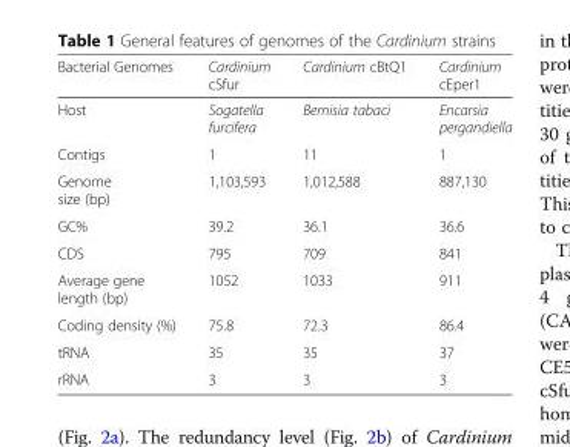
<table><thead><tr><td>Bacterial Genomes</td><td>Cardinium cSfur</td><td>Cardinium cBtQ1</td><td>Cardinium cEper1</td></tr></thead><tbody><tr><td>Host</td><td>Sogatella furcifera</td><td>Bemisia tabaci</td><td>Encarsia pergandiella</td></tr><tr><td>Contigs</td><td>1</td><td>11</td><td>1</td></tr><tr><td>Genome size (bp)</td><td>1,103,593</td><td>1,012,588</td><td>887,130</td></tr><tr><td>GC%</td><td>39.2</td><td>36.1</td><td>36.6</td></tr><tr><td>CDS</td><td>795</td><td>709</td><td>841</td></tr><tr><td>Average gene length (bp)</td><td>1052</td><td>1033</td><td>911</td></tr><tr><td>Coding density (%)</td><td>75.8</td><td>72.3</td><td>86.4</td></tr><tr><td>tRNA</td><td>35</td><td>35</td><td>37</td></tr><tr><td>rRNA</td><td>3</td><td>3</td><td>3</td></tr></tbody></table>